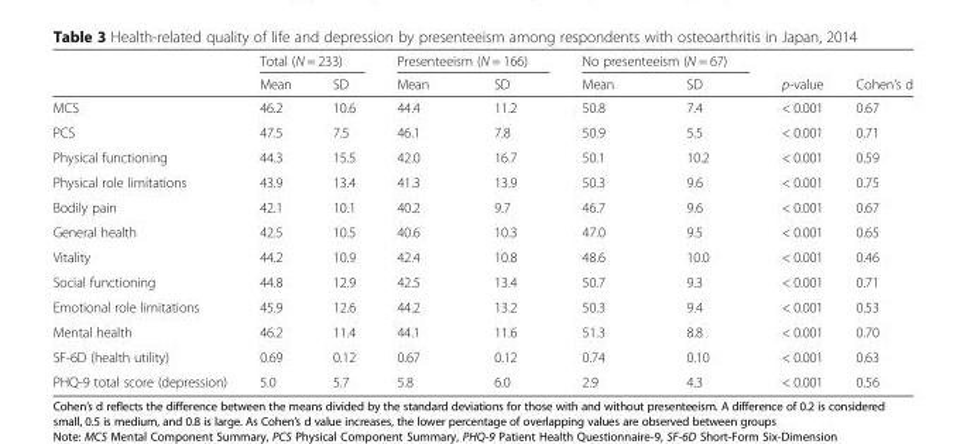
<table><thead><tr><td rowspan="2"></td><td colspan="2">Total (N = 233)</td><td colspan="2">Presenteeism (N = 166)</td><td colspan="2">No presenteeism (N = 67)</td><td rowspan="2">p-value</td><td rowspan="2">Cohen’s d</td></tr><tr><td>Mean</td><td>SD</td><td>Mean</td><td>SD</td><td>Mean</td><td>SD</td></tr></thead><tbody><tr><td>MCS</td><td>46.2</td><td>10.6</td><td>44.4</td><td>11.2</td><td>50.8</td><td>7.4</td><td>&lt; 0.001</td><td>0.67</td></tr><tr><td>PCS</td><td>47.5</td><td>7.5</td><td>46.1</td><td>7.8</td><td>50.9</td><td>5.5</td><td>&lt; 0.001</td><td>0.71</td></tr><tr><td>Physical functioning</td><td>44.3</td><td>15.5</td><td>42.0</td><td>16.7</td><td>50.1</td><td>10.2</td><td>&lt; 0.001</td><td>0.59</td></tr><tr><td>Physical role limitations</td><td>43.9</td><td>13.4</td><td>41.3</td><td>13.9</td><td>50.3</td><td>9.6</td><td>&lt; 0.001</td><td>0.75</td></tr><tr><td>Bodily pain</td><td>42.1</td><td>10.1</td><td>40.2</td><td>9.7</td><td>46.7</td><td>9.6</td><td>&lt; 0.001</td><td>0.67</td></tr><tr><td>General health</td><td>42.5</td><td>10.5</td><td>40.6</td><td>10.3</td><td>47.0</td><td>9.5</td><td>&lt; 0.001</td><td>0.65</td></tr><tr><td>Vitality</td><td>44.2</td><td>10.9</td><td>42.4</td><td>10.8</td><td>48.6</td><td>10.0</td><td>&lt; 0.001</td><td>0.46</td></tr><tr><td>Social functioning</td><td>44.8</td><td>12.9</td><td>42.5</td><td>13.4</td><td>50.7</td><td>9.3</td><td>&lt; 0.001</td><td>0.71</td></tr><tr><td>Emotional role limitations</td><td>45.9</td><td>12.6</td><td>44.2</td><td>13.2</td><td>50.3</td><td>9.4</td><td>&lt; 0.001</td><td>0.53</td></tr><tr><td>Mental health</td><td>46.2</td><td>11.4</td><td>44.1</td><td>11.6</td><td>51.3</td><td>8.8</td><td>&lt; 0.001</td><td>0.70</td></tr><tr><td>SF-6D (health utility)</td><td>0.69</td><td>0.12</td><td>0.67</td><td>0.12</td><td>0.74</td><td>0.10</td><td>&lt; 0.001</td><td>0.63</td></tr><tr><td>PHQ-9 total score (depression)</td><td>5.0</td><td>5.7</td><td>5.8</td><td>6.0</td><td>2.9</td><td>4.3</td><td>&lt; 0.001</td><td>0.56</td></tr></tbody></table>